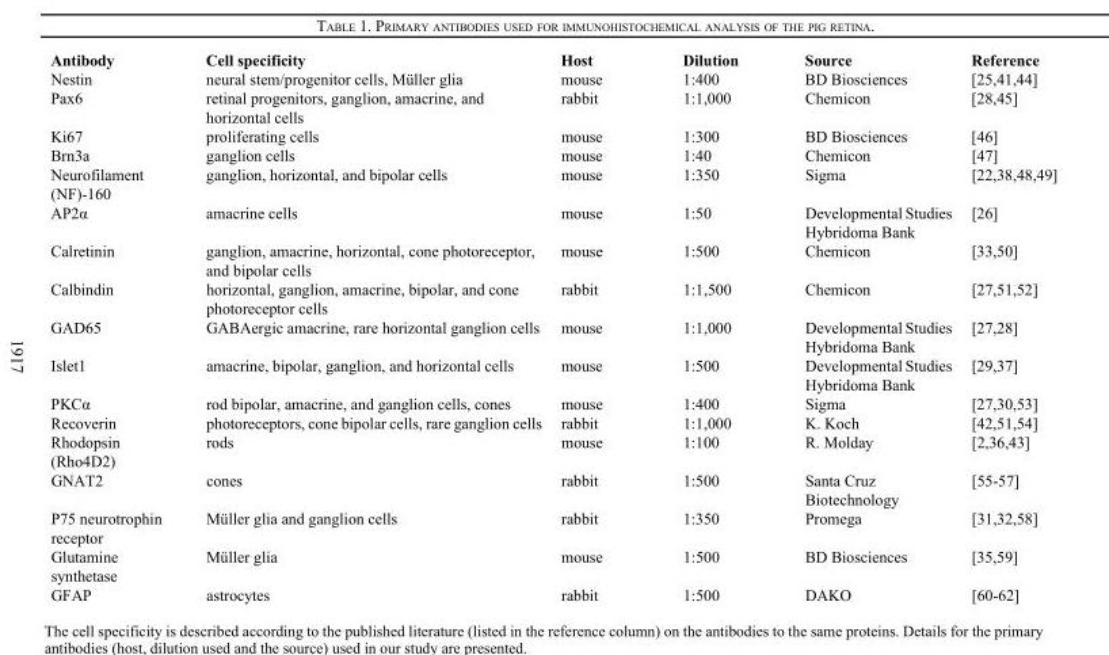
<table><thead><tr><td>Antibody</td><td>Cell specificity</td><td>Host</td><td>Dilution</td><td>Source</td><td>Reference</td></tr></thead><tbody><tr><td>Nestin</td><td>neural stem/progenitor cells, Müller glia</td><td>mouse</td><td>1:400</td><td>BD Biosciences</td><td>[25,41,44]</td></tr><tr><td>Pax6</td><td>retinal progenitors, ganglion, amacrine, and horizontal cells</td><td>rabbit</td><td>1:1,000</td><td>Chemicon</td><td>[28,45]</td></tr><tr><td>Ki67</td><td>proliferating cells</td><td>mouse</td><td>1:300</td><td>BD Biosciences</td><td>[46]</td></tr><tr><td>Brn3a</td><td>ganglion cells</td><td>mouse</td><td>1:40</td><td>Chemicon</td><td>[47]</td></tr><tr><td>Neurofilament (NF)-160</td><td>ganglion, horizontal, and bipolar cells</td><td>mouse</td><td>1:350</td><td>Sigma</td><td>[22,38,48,49]</td></tr><tr><td>AP2α</td><td>amacrine cells</td><td>mouse</td><td>1:50</td><td>Developmental Studies Hybridoma Bank</td><td>[26]</td></tr><tr><td>Calretinin</td><td>ganglion, amacrine, horizontal, cone photoreceptor, and bipolar cells</td><td>mouse</td><td>1:500</td><td>Chemicon</td><td>[33,50]</td></tr><tr><td>Calbindin</td><td>horizontal, ganglion, amacrine, bipolar, and cone photoreceptor cells</td><td>rabbit</td><td>1:1,500</td><td>Chemicon</td><td>[27,51,52]</td></tr><tr><td>GAD65</td><td>GABAergic amacrine, rare horizontal ganglion cells</td><td>mouse</td><td>1:1,000</td><td>Developmental Studies Hybridoma Bank</td><td>[27,28]</td></tr><tr><td>Islet1</td><td>amacrine, bipolar, ganglion, and horizontal cells</td><td>mouse</td><td>1:500</td><td>Developmental Studies Hybridoma Bank</td><td>[29,37]</td></tr><tr><td>PKCα</td><td>rod bipolar, amacrine, and ganglion cells, cones</td><td>mouse</td><td>1:400</td><td>Sigma</td><td>[27,30,53]</td></tr><tr><td>Recoverin</td><td>photoreceptors, cone bipolar cells, rare ganglion cells</td><td>rabbit</td><td>1:1,000</td><td>K. Koch</td><td>[42,51,54]</td></tr><tr><td>Rhodopsin (Rho4D2)</td><td>rods</td><td>mouse</td><td>1:100</td><td>R. Molday</td><td>[2,36,43]</td></tr><tr><td>GNAT2</td><td>cones</td><td>rabbit</td><td>1:500</td><td>Santa Cruz Biotechnology</td><td>[55-57]</td></tr><tr><td>P75 neurotrophin receptor</td><td>Müller glia and ganglion cells</td><td>rabbit</td><td>1:350</td><td>Promega</td><td>[31,32,58]</td></tr><tr><td>Glutamine synthetase</td><td>Müller glia</td><td>mouse</td><td>1:500</td><td>BD Biosciences</td><td>[35,59]</td></tr><tr><td>GFAP</td><td>astrocytes</td><td>rabbit</td><td>1:500</td><td>DAKO</td><td>[60-62]</td></tr></tbody></table>